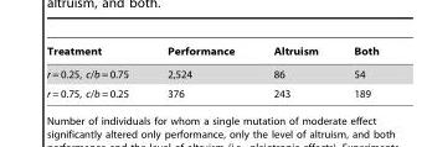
<table><thead><tr><td>Treatment</td><td>Performance</td><td>Altruism</td><td>Both</td></tr></thead><tbody><tr><td>r = 0.25, c/b = 0.75</td><td>2,524</td><td>86</td><td>54</td></tr><tr><td>r = 0.75, c/b = 0.25</td><td>376</td><td>243</td><td>189</td></tr></tbody></table>